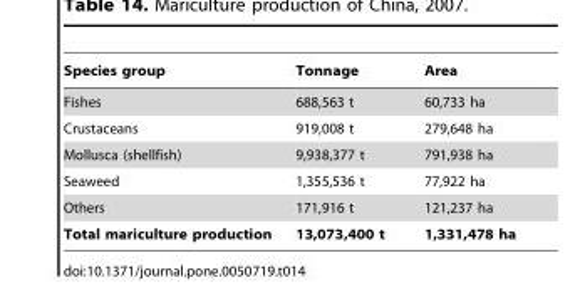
<table><thead><tr><td>Species group</td><td>Tonnage</td><td>Area</td></tr></thead><tbody><tr><td>Fishes</td><td>688,563 t</td><td>60,733 ha</td></tr><tr><td>Crustaceans</td><td>919,008 t</td><td>279,648 ha</td></tr><tr><td>Mollusca (shellfish)</td><td>9,938,377 t</td><td>791,938 ha</td></tr><tr><td>Seaweed</td><td>1,355,536 t</td><td>77,922 ha</td></tr><tr><td>Others</td><td>171,916 t</td><td>121,237 ha</td></tr><tr><td>Total mariculture production</td><td>13,073,400 t</td><td>1,331,478 ha</td></tr></tbody></table>